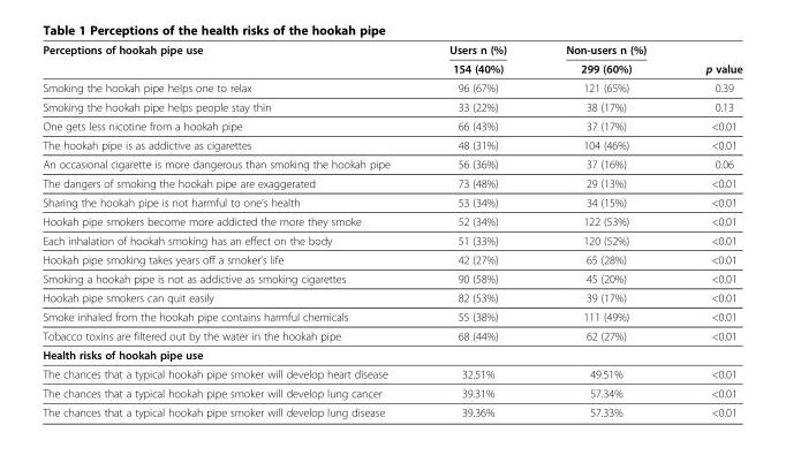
<table><thead><tr><td rowspan="2">Perceptions of hookah pipe use</td><td rowspan="2">Users n (%) 154 (40%)</td><td rowspan="2">Non-users n (%) 299 (60%)</td><td rowspan="2">p value</td></tr><tr></tr></thead><tbody><tr><td>Smoking the hookah pipe helps one to relax</td><td>96 (67%)</td><td>121 (65%)</td><td>0.39</td></tr><tr><td>Smoking the hookah pipe helps people stay thin</td><td>33 (22%)</td><td>38 (17%)</td><td>0.13</td></tr><tr><td>One gets less nicotine from a hookah pipe</td><td>66 (43%)</td><td>37 (17%)</td><td>&lt;0.01</td></tr><tr><td>The hookah pipe is as addictive as cigarettes</td><td>48 (31%)</td><td>104 (46%)</td><td>&lt;0.01</td></tr><tr><td>An occasional cigarette is more dangerous than smoking the hookah pipe</td><td>56 (36%)</td><td>37 (16%)</td><td>0.06</td></tr><tr><td>The dangers of smoking the hookah pipe are exaggerated</td><td>73 (48%)</td><td>29 (13%)</td><td>&lt;0.01</td></tr><tr><td>Sharing the hookah pipe is not harmful to one’s health</td><td>53 (34%)</td><td>34 (15%)</td><td>&lt;0.01</td></tr><tr><td>Hookah pipe smokers become more addicted the more they smoke</td><td>52 (34%)</td><td>122 (53%)</td><td>&lt;0.01</td></tr><tr><td>Each inhalation of hookah smoking has an effect on the body</td><td>51 (33%)</td><td>120 (52%)</td><td>&lt;0.01</td></tr><tr><td>Hookah pipe smoking takes years off a smoker’s life</td><td>42 (27%)</td><td>65 (28%)</td><td>&lt;0.01</td></tr><tr><td>Smoking a hookah pipe is not as addictive as smoking cigarettes</td><td>90 (58%)</td><td>45 (20%)</td><td>&lt;0.01</td></tr><tr><td>Hookah pipe smokers can quit easily</td><td>82 (53%)</td><td>39 (17%)</td><td>&lt;0.01</td></tr><tr><td>Smoke inhaled from the hookah pipe contains harmful chemicals</td><td>55 (38%)</td><td>111 (49%)</td><td>&lt;0.01</td></tr><tr><td>Tobacco toxins are filtered out by the water in the hookah pipe</td><td>68 (44%)</td><td>62 (27%)</td><td>&lt;0.01</td></tr><tr><td colspan="4">Health risks of hookah pipe use</td></tr><tr><td>The chances that a typical hookah pipe smoker will develop heart disease</td><td>32.51%</td><td>49.51%</td><td>&lt;0.01</td></tr><tr><td>The chances that a typical hookah pipe smoker will develop lung cancer</td><td>39.31%</td><td>57.34%</td><td>&lt;0.01</td></tr><tr><td>The chances that a typical hookah pipe smoker will develop lung disease</td><td>39.36%</td><td>57.33%</td><td>&lt;0.01</td></tr></tbody></table>